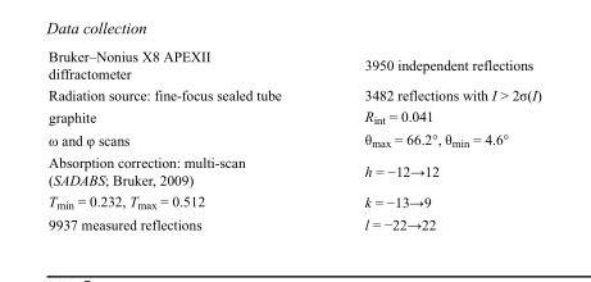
<table><tbody><tr><td>Bruker–Nonius X8 APEXII diffractometer</td><td>3950 independent reflections</td></tr><tr><td>Radiation source: fine-focus sealed tube</td><td>3482 reflections with I &gt; 2σ(I)</td></tr><tr><td>graphite</td><td>R<sub>int</sub> = 0.041</td></tr><tr><td>ω and φ scans</td><td>θ<sub>max</sub> = 66.2°, θ<sub>min</sub> = 4.6°</td></tr><tr><td>Absorption correction: multi-scan (SADABS; Bruker, 2009)</td><td>h = −12→12</td></tr><tr><td>T<sub>min</sub> = 0.232, T<sub>max</sub> = 0.512</td><td>k = −13→9</td></tr><tr><td>9937 measured reflections</td><td>l = −22→22</td></tr></tbody></table>